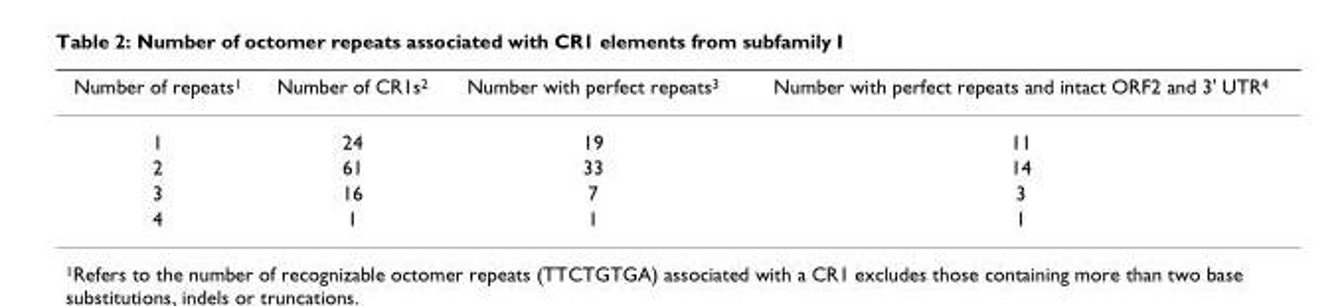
<table><thead><tr><td>Number of repeats<sup>1</sup></td><td>Number of CR1s<sup>2</sup></td><td>Number with perfect repeats<sup>3</sup></td><td>Number with perfect repeats and intact ORF2 and 3&#x27; UTR<sup>4</sup></td></tr></thead><tbody><tr><td>1</td><td>24</td><td>19</td><td>11</td></tr><tr><td>2</td><td>61</td><td>33</td><td>14</td></tr><tr><td>3</td><td>16</td><td>7</td><td>3</td></tr><tr><td>4</td><td>1</td><td>1</td><td>1</td></tr></tbody></table>